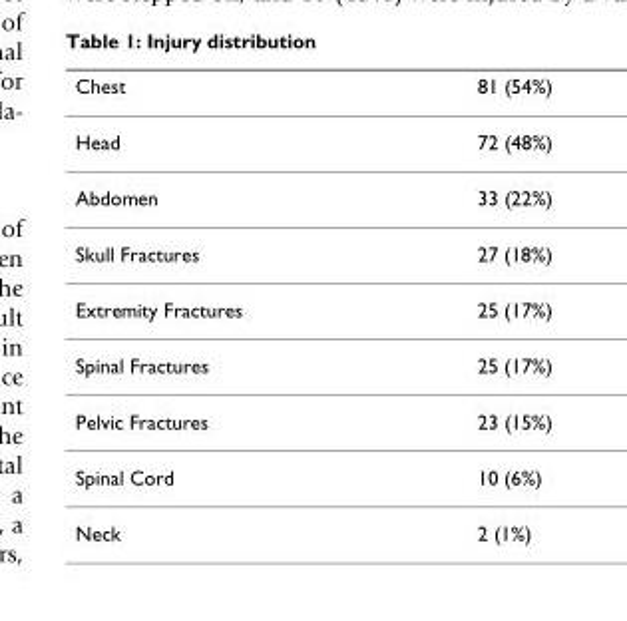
<table><thead><tr><td>Chest</td><td>81 (54%)</td></tr></thead><tbody><tr><td>Head</td><td>72 (48%)</td></tr><tr><td>Abdomen</td><td>33 (22%)</td></tr><tr><td>Skull Fractures</td><td>27 (18%)</td></tr><tr><td>Extremity Fractures</td><td>25 (17%)</td></tr><tr><td>Spinal Fractures</td><td>25 (17%)</td></tr><tr><td>Pelvic Fractures</td><td>23 (15%)</td></tr><tr><td>Spinal Cord</td><td>10 (6%)</td></tr><tr><td>Neck</td><td>2 (1%)</td></tr></tbody></table>